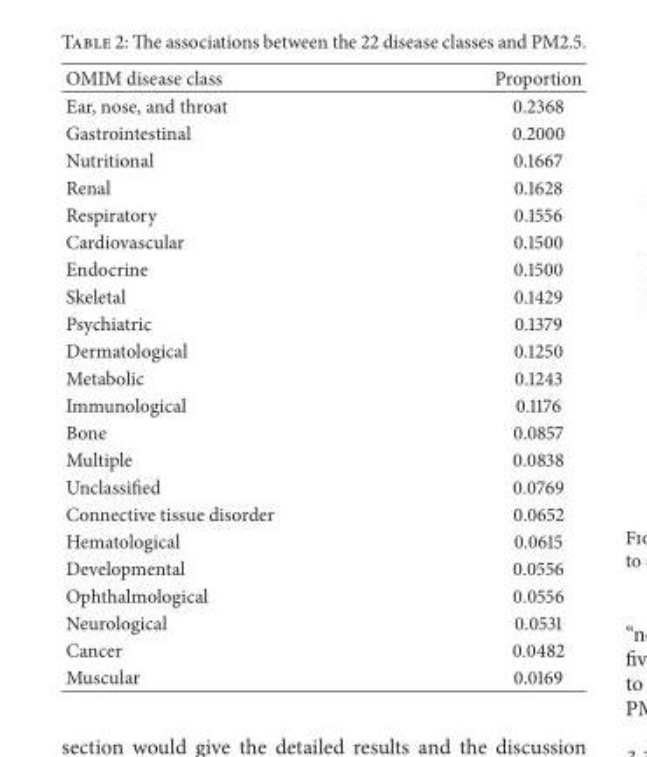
<table><thead><tr><td>OMIM disease class</td><td>Proportion</td></tr></thead><tbody><tr><td>Ear, nose, and throat</td><td>0.2368</td></tr><tr><td>Gastrointestinal</td><td>0.2000</td></tr><tr><td>Nutritional</td><td>0.1667</td></tr><tr><td>Renal</td><td>0.1628</td></tr><tr><td>Respiratory</td><td>0.1556</td></tr><tr><td>Cardiovascular</td><td>0.1500</td></tr><tr><td>Endocrine</td><td>0.1500</td></tr><tr><td>Skeletal</td><td>0.1429</td></tr><tr><td>Psychiatric</td><td>0.1379</td></tr><tr><td>Dermatological</td><td>0.1250</td></tr><tr><td>Metabolic</td><td>0.1243</td></tr><tr><td>Immunological</td><td>0.1176</td></tr><tr><td>Bone</td><td>0.0857</td></tr><tr><td>Multiple</td><td>0.0838</td></tr><tr><td>Unclassified</td><td>0.0769</td></tr><tr><td>Connective tissue disorder</td><td>0.0652</td></tr><tr><td>Hematological</td><td>0.0615</td></tr><tr><td>Developmental</td><td>0.0556</td></tr><tr><td>Ophthalmological</td><td>0.0556</td></tr><tr><td>Neurological</td><td>0.0531</td></tr><tr><td>Cancer</td><td>0.0482</td></tr><tr><td>Muscular</td><td>0.0169</td></tr></tbody></table>